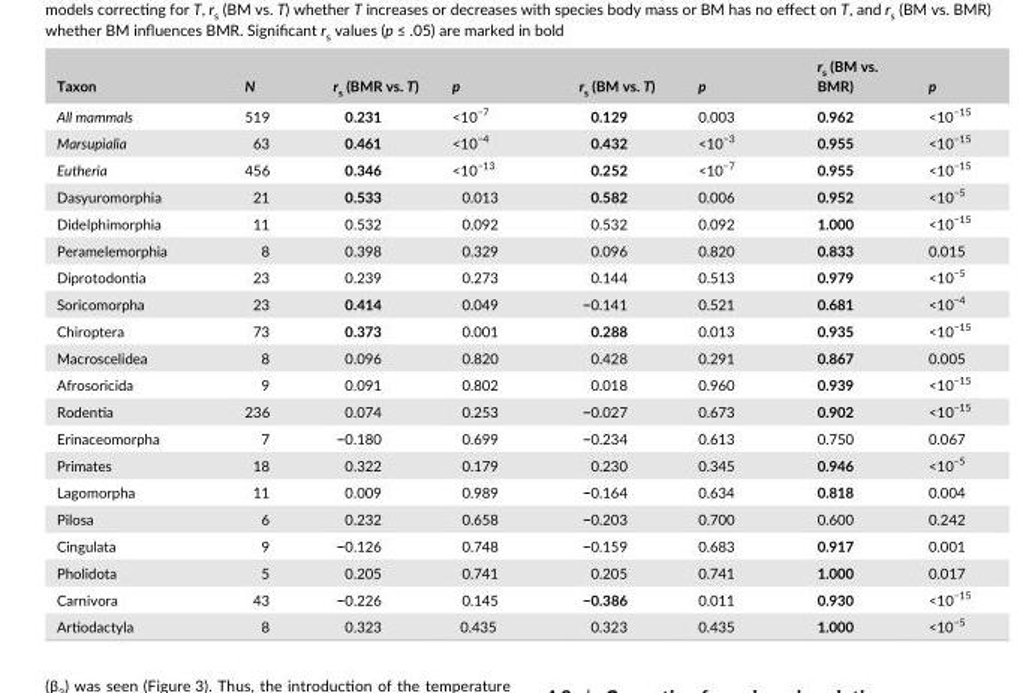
<table><thead><tr><td>Taxon</td><td>N</td><td>r<sub>s</sub> (BMR vs. T)</td><td>p</td><td>r<sub>s</sub> (BM vs. T)</td><td>p</td><td>r<sub>s</sub> (BM vs. BMR)</td><td>p</td></tr></thead><tbody><tr><td>All mammals</td><td>519</td><td>0.231</td><td>&lt;10<sup>−7</sup></td><td>0.129</td><td>0.003</td><td>0.962</td><td>&lt;10<sup>−15</sup></td></tr><tr><td>Marsupialia</td><td>63</td><td>0.461</td><td>&lt;10<sup>−4</sup></td><td>0.432</td><td>&lt;10<sup>−3</sup></td><td>0.955</td><td>&lt;10<sup>−15</sup></td></tr><tr><td>Eutheria</td><td>456</td><td>0.346</td><td>&lt;10<sup>−13</sup></td><td>0.252</td><td>&lt;10<sup>−7</sup></td><td>0.955</td><td>&lt;10<sup>−15</sup></td></tr><tr><td>Dasyuromorphia</td><td>21</td><td>0.533</td><td>0.013</td><td>0.582</td><td>0.006</td><td>0.952</td><td>&lt;10<sup>−5</sup></td></tr><tr><td>Didelphimorphia</td><td>11</td><td>0.532</td><td>0.092</td><td>0.532</td><td>0.092</td><td>1.000</td><td>&lt;10<sup>−15</sup></td></tr><tr><td>Peramelemorphia</td><td>8</td><td>0.398</td><td>0.329</td><td>0.096</td><td>0.820</td><td>0.833</td><td>0.015</td></tr><tr><td>Diprotodontia</td><td>23</td><td>0.239</td><td>0.273</td><td>0.144</td><td>0.513</td><td>0.979</td><td>&lt;10<sup>−5</sup></td></tr><tr><td>Soricomorpha</td><td>23</td><td>0.414</td><td>0.049</td><td>−0.141</td><td>0.521</td><td>0.681</td><td>&lt;10<sup>−4</sup></td></tr><tr><td>Chiroptera</td><td>73</td><td>0.373</td><td>0.001</td><td>0.288</td><td>0.013</td><td>0.935</td><td>&lt;10<sup>−15</sup></td></tr><tr><td>Macroscelidea</td><td>8</td><td>0.096</td><td>0.820</td><td>0.428</td><td>0.291</td><td>0.867</td><td>0.005</td></tr><tr><td>Afrosoricida</td><td>9</td><td>0.091</td><td>0.802</td><td>0.018</td><td>0.960</td><td>0.939</td><td>&lt;10<sup>−15</sup></td></tr><tr><td>Rodentia</td><td>236</td><td>0.074</td><td>0.253</td><td>−0.027</td><td>0.673</td><td>0.902</td><td>&lt;10<sup>−15</sup></td></tr><tr><td>Erinaceomorpha</td><td>7</td><td>−0.180</td><td>0.699</td><td>−0.234</td><td>0.613</td><td>0.750</td><td>0.067</td></tr><tr><td>Primates</td><td>18</td><td>0.322</td><td>0.179</td><td>0.230</td><td>0.345</td><td>0.946</td><td>&lt;10<sup>−5</sup></td></tr><tr><td>Lagomorpha</td><td>11</td><td>0.009</td><td>0.989</td><td>−0.164</td><td>0.634</td><td>0.818</td><td>0.004</td></tr><tr><td>Pilosa</td><td>6</td><td>0.232</td><td>0.658</td><td>−0.203</td><td>0.700</td><td>0.600</td><td>0.242</td></tr><tr><td>Cingulata</td><td>9</td><td>−0.126</td><td>0.748</td><td>−0.159</td><td>0.683</td><td>0.917</td><td>0.001</td></tr><tr><td>Pholidota</td><td>5</td><td>0.205</td><td>0.741</td><td>0.205</td><td>0.741</td><td>1.000</td><td>0.017</td></tr><tr><td>Carnivora</td><td>43</td><td>−0.226</td><td>0.145</td><td>−0.386</td><td>0.011</td><td>0.930</td><td>&lt;10<sup>−15</sup></td></tr><tr><td>Artiodactyla</td><td>8</td><td>0.323</td><td>0.435</td><td>0.323</td><td>0.435</td><td>1.000</td><td>&lt;10<sup>−5</sup></td></tr></tbody></table>